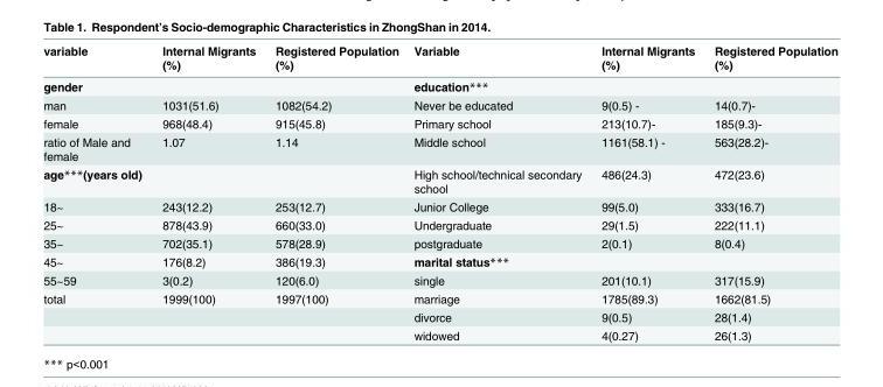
<table><thead><tr><td>variable</td><td>Internal Migrants (%)</td><td>Registered Population (%)</td><td>Variable</td><td>Internal Migrants (%)</td><td>Registered Population (%)</td></tr></thead><tbody><tr><td>gender</td><td></td><td></td><td>education***</td><td></td><td></td></tr><tr><td>man</td><td>1031(51.6)</td><td>1082(54.2)</td><td>Never be educated</td><td>9(0.5) -</td><td>14(0.7)-</td></tr><tr><td>female</td><td>968(48.4)</td><td>915(45.8)</td><td>Primary school</td><td>213(10.7)-</td><td>185(9.3)-</td></tr><tr><td>ratio of Male and female</td><td>1.07</td><td>1.14</td><td>Middle school</td><td>1161(58.1) -</td><td>563(28.2)-</td></tr><tr><td>age***(years old)</td><td></td><td></td><td>High school/technical secondary school</td><td>486(24.3)</td><td>472(23.6)</td></tr><tr><td>18~</td><td>243(12.2)</td><td>253(12.7)</td><td>Junior College</td><td>99(5.0)</td><td>333(16.7)</td></tr><tr><td>25~</td><td>878(43.9)</td><td>660(33.0)</td><td>Undergraduate</td><td>29(1.5)</td><td>222(11.1)</td></tr><tr><td>35~</td><td>702(35.1)</td><td>578(28.9)</td><td>postgraduate</td><td>2(0.1)</td><td>8(0.4)</td></tr><tr><td>45~</td><td>176(8.2)</td><td>386(19.3)</td><td>marital status***</td><td></td><td></td></tr><tr><td>55~59</td><td>3(0.2)</td><td>120(6.0)</td><td>single</td><td>201(10.1)</td><td>317(15.9)</td></tr><tr><td rowspan="3">total</td><td>1999(100)</td><td>1997(100)</td><td>marriage</td><td>1785(89.3)</td><td>1662(81.5)</td></tr><tr><td></td><td></td><td>divorce</td><td>9(0.5)</td><td>28(1.4)</td></tr><tr><td></td><td></td><td>widowed</td><td>4(0.27)</td><td>26(1.3)</td></tr></tbody></table>